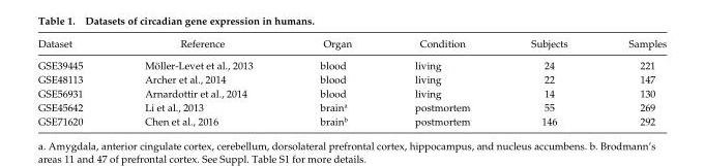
<table><thead><tr><td>Dataset</td><td>Reference</td><td>Organ</td><td>Condition</td><td>Subjects</td><td>Samples</td></tr></thead><tbody><tr><td>GSE39445</td><td>Möller-Levet et al., 2013</td><td>blood</td><td>living</td><td>24</td><td>221</td></tr><tr><td>GSE48113</td><td>Archer et al., 2014</td><td>blood</td><td>living</td><td>22</td><td>147</td></tr><tr><td>GSE56931</td><td>Arnardottir et al., 2014</td><td>blood</td><td>living</td><td>14</td><td>130</td></tr><tr><td>GSE45642</td><td>Li et al., 2013</td><td>brain<sup>a</sup></td><td>postmortem</td><td>55</td><td>269</td></tr><tr><td>GSE71620</td><td>Chen et al., 2016</td><td>brain<sup>b</sup></td><td>postmortem</td><td>146</td><td>292</td></tr></tbody></table>